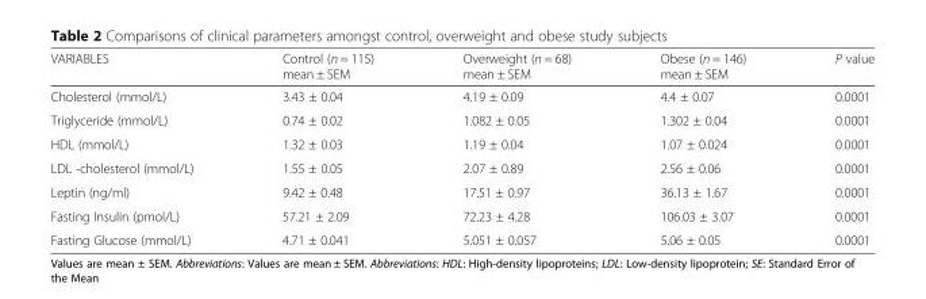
<table><thead><tr><td>VARIABLES</td><td>Control (n = 115) mean ± SEM</td><td>Overweight (n = 68) mean ± SEM</td><td>Obese (n = 146) mean ± SEM</td><td>P value</td></tr></thead><tbody><tr><td>Cholesterol (mmol/L)</td><td>3.43 ± 0.04</td><td>4.19 ± 0.09</td><td>4.4 ± 0.07</td><td>0.0001</td></tr><tr><td>Triglyceride (mmol/L)</td><td>0.74 ± 0.02</td><td>1.082 ± 0.05</td><td>1.302 ± 0.04</td><td>0.0001</td></tr><tr><td>HDL (mmol/L)</td><td>1.32 ± 0.03</td><td>1.19 ± 0.04</td><td>1.07 ± 0.024</td><td>0.0001</td></tr><tr><td>LDL -cholesterol (mmol/L)</td><td>1.55 ± 0.05</td><td>2.07 ± 0.89</td><td>2.56 ± 0.06</td><td>0.0001</td></tr><tr><td>Leptin (ng/ml)</td><td>9.42 ± 0.48</td><td>17.51 ± 0.97</td><td>36.13 ± 1.67</td><td>0.0001</td></tr><tr><td>Fasting Insulin (pmol/L)</td><td>57.21 ± 2.09</td><td>72.23 ± 4.28</td><td>106.03 ± 3.07</td><td>0.0001</td></tr><tr><td>Fasting Glucose (mmol/L)</td><td>4.71 ± 0.041</td><td>5.051 ± 0.057</td><td>5.06 ± 0.05</td><td>0.0001</td></tr></tbody></table>